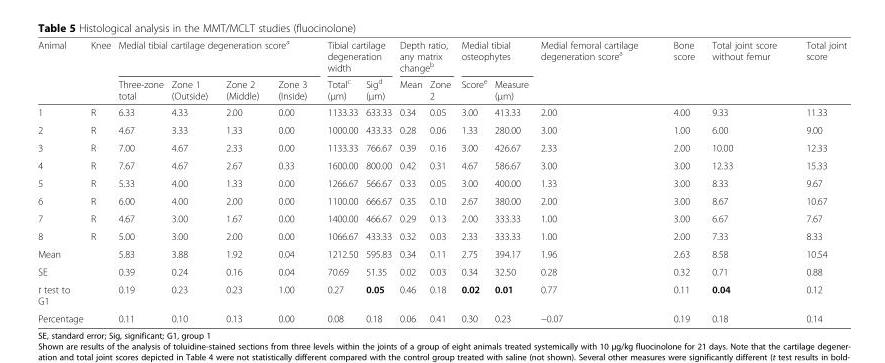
<table><thead><tr><td rowspan="2">Animal</td><td rowspan="2">Knee</td><td colspan="4">Medial tibial cartilage degeneration score<sup>a</sup></td><td colspan="2">Tibial cartilage degeneration width</td><td colspan="2">Depth ratio, any matrix change<sup>b</sup></td><td colspan="2">Medial tibial osteophytes</td><td rowspan="2">Medial femoral cartilage degeneration score<sup>a</sup></td><td rowspan="2">Bone score</td><td rowspan="2">Total joint score without femur</td><td rowspan="2">Total joint score</td></tr><tr><td>Three-zone total</td><td>Zone 1 (Outside)</td><td>Zone 2 (Middle)</td><td>Zone 3 (Inside)</td><td>Total<sup>c</sup> (μm)</td><td>Sig<sup>d</sup> (μm)</td><td>Mean</td><td>Zone 2</td><td>Score<sup>e</sup></td><td>Measure (μm)</td></tr></thead><tbody><tr><td>1</td><td>R</td><td>6.33</td><td>4.33</td><td>2.00</td><td>0.00</td><td>1133.33</td><td>633.33</td><td>0.34</td><td>0.05</td><td>3.00</td><td>413.33</td><td>2.00</td><td>4.00</td><td>9.33</td><td>11.33</td></tr><tr><td>2</td><td>R</td><td>4.67</td><td>3.33</td><td>1.33</td><td>0.00</td><td>1000.00</td><td>433.33</td><td>0.28</td><td>0.06</td><td>1.33</td><td>280.00</td><td>3.00</td><td>1.00</td><td>6.00</td><td>9.00</td></tr><tr><td>3</td><td>R</td><td>7.00</td><td>4.67</td><td>2.33</td><td>0.00</td><td>1133.33</td><td>766.67</td><td>0.39</td><td>0.16</td><td>3.00</td><td>426.67</td><td>2.33</td><td>2.00</td><td>10.00</td><td>12.33</td></tr><tr><td>4</td><td>R</td><td>7.67</td><td>4.67</td><td>2.67</td><td>0.33</td><td>1600.00</td><td>800.00</td><td>0.42</td><td>0.31</td><td>4.67</td><td>586.67</td><td>3.00</td><td>3.00</td><td>12.33</td><td>15.33</td></tr><tr><td>5</td><td>R</td><td>5.33</td><td>4.00</td><td>1.33</td><td>0.00</td><td>1266.67</td><td>566.67</td><td>0.33</td><td>0.05</td><td>3.00</td><td>400.00</td><td>1.33</td><td>3.00</td><td>8.33</td><td>9.67</td></tr><tr><td>6</td><td>R</td><td>6.00</td><td>4.00</td><td>2.00</td><td>0.00</td><td>1100.00</td><td>666.67</td><td>0.35</td><td>0.10</td><td>2.67</td><td>380.00</td><td>2.00</td><td>3.00</td><td>8.67</td><td>10.67</td></tr><tr><td>7</td><td>R</td><td>4.67</td><td>3.00</td><td>1.67</td><td>0.00</td><td>1400.00</td><td>466.67</td><td>0.29</td><td>0.13</td><td>2.00</td><td>333.33</td><td>1.00</td><td>3.00</td><td>6.67</td><td>7.67</td></tr><tr><td>8</td><td>R</td><td>5.00</td><td>3.00</td><td>2.00</td><td>0.00</td><td>1066.67</td><td>433.33</td><td>0.32</td><td>0.03</td><td>2.33</td><td>333.33</td><td>1.00</td><td>2.00</td><td>7.33</td><td>8.33</td></tr><tr><td>Mean</td><td rowspan="4"></td><td>5.83</td><td>3.88</td><td>1.92</td><td>0.04</td><td>1212.50</td><td>595.83</td><td>0.34</td><td>0.11</td><td>2.75</td><td>394.17</td><td>1.96</td><td>2.63</td><td>8.58</td><td>10.54</td></tr><tr><td>SE</td><td>0.39</td><td>0.24</td><td>0.16</td><td>0.04</td><td>70.69</td><td>51.35</td><td>0.02</td><td>0.03</td><td>0.34</td><td>32.50</td><td>0.28</td><td>0.32</td><td>0.71</td><td>0.88</td></tr><tr><td>t test to G1</td><td>0.19</td><td>0.23</td><td>0.23</td><td>1.00</td><td>0.27</td><td>0.05</td><td>0.46</td><td>0.18</td><td>0.02</td><td>0.01</td><td>0.77</td><td>0.11</td><td>0.04</td><td>0.12</td></tr><tr><td>Percentage</td><td>0.11</td><td>0.10</td><td>0.13</td><td>0.00</td><td>0.08</td><td>0.18</td><td>0.06</td><td>0.41</td><td>0.30</td><td>0.23</td><td>−0.07</td><td>0.19</td><td>0.18</td><td>0.14</td></tr></tbody></table>